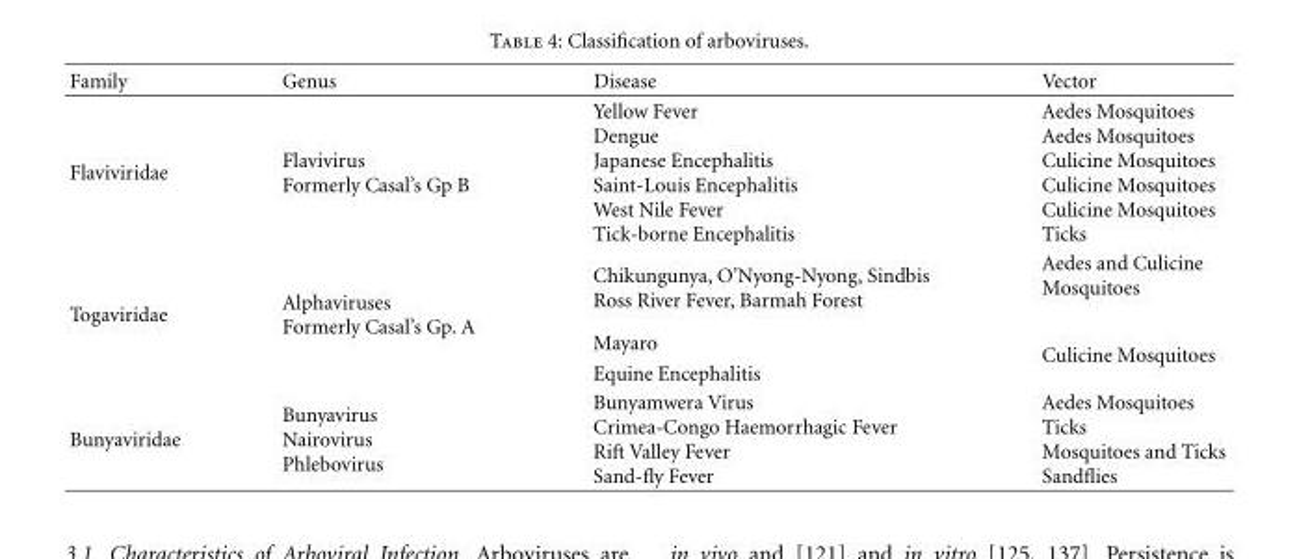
<table><thead><tr><td>Family</td><td>Genus</td><td>Disease</td><td>Vector</td></tr></thead><tbody><tr><td>Flaviviridae</td><td>Flavivirus Formerly Casal’s Gp B</td><td>Yellow Fever Dengue Japanese Encephalitis Saint-Louis Encephalitis West Nile Fever Tick-borne Encephalitis</td><td>Aedes Mosquitoes Aedes Mosquitoes Culicine Mosquitoes Culicine Mosquitoes Culicine Mosquitoes Ticks</td></tr><tr><td rowspan="3">Togaviridae</td><td rowspan="3">Alphaviruses Formerly Casal’s Gp. A</td><td>Chikungunya, O’Nyong-Nyong, Sindbis Ross River Fever, Barmah Forest</td><td>Aedes and Culicine Mosquitoes</td></tr><tr><td>Mayaro</td><td rowspan="2">Culicine Mosquitoes</td></tr><tr><td>Equine Encephalitis</td></tr><tr><td>Bunyaviridae</td><td>Bunyavirus Nairovirus Phlebovirus</td><td>Bunyamwera Virus Crimea-Congo Haemorrhagic Fever Rift Valley Fever Sand-fly Fever</td><td>Aedes Mosquitoes Ticks Mosquitoes and Ticks Sandflies</td></tr></tbody></table>